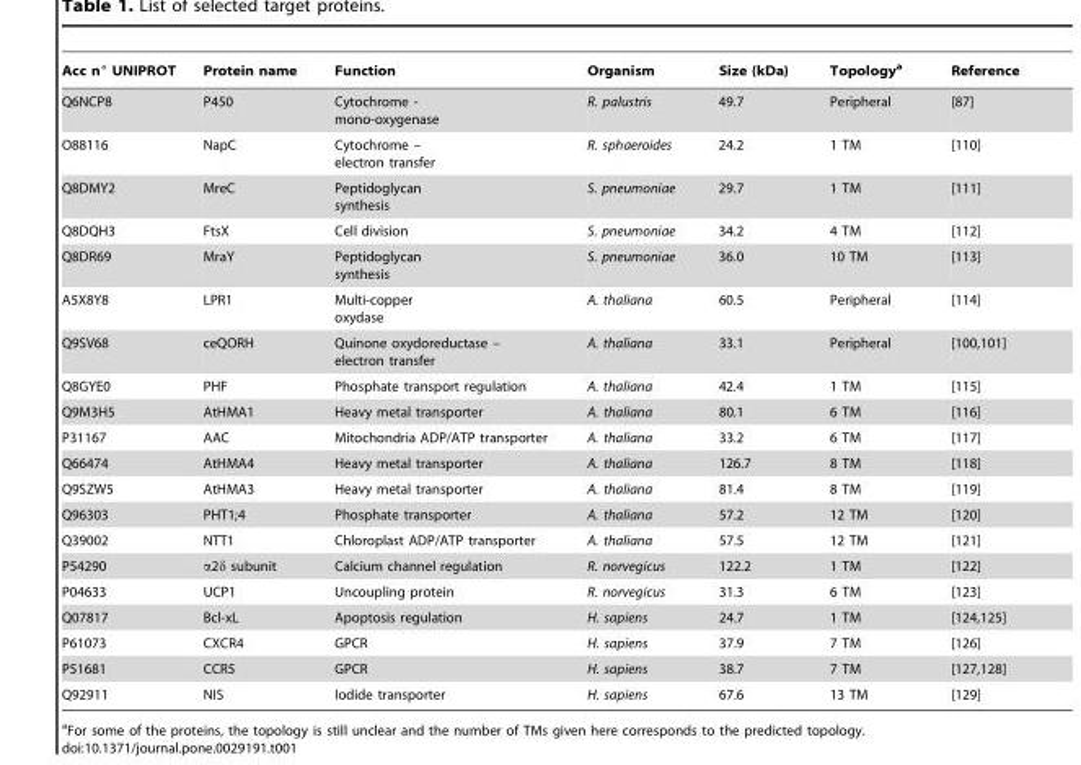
<table><thead><tr><td>Acc n° UNIPROT</td><td>Protein name</td><td>Function</td><td>Organism</td><td>Size (kDa)</td><td>Topology<sup>a</sup></td><td>Reference</td></tr></thead><tbody><tr><td>Q6NCP8</td><td>P450</td><td>Cytochrome - mono-oxygenase</td><td>R. palustris</td><td>49.7</td><td>Peripheral</td><td>[87]</td></tr><tr><td>O88116</td><td>NapC</td><td>Cytochrome – electron transfer</td><td>R. sphaeroides</td><td>24.2</td><td>1 TM</td><td>[110]</td></tr><tr><td>Q8DMY2</td><td>MreC</td><td>Peptidoglycan synthesis</td><td>S. pneumoniae</td><td>29.7</td><td>1 TM</td><td>[111]</td></tr><tr><td>Q8DQH3</td><td>FtsX</td><td>Cell division</td><td>S. pneumoniae</td><td>34.2</td><td>4 TM</td><td>[112]</td></tr><tr><td>Q8DR69</td><td>MraY</td><td>Peptidoglycan synthesis</td><td>S. pneumoniae</td><td>36.0</td><td>10 TM</td><td>[113]</td></tr><tr><td>A5X8Y8</td><td>LPR1</td><td>Multi-copper oxydase</td><td>A. thaliana</td><td>60.5</td><td>Peripheral</td><td>[114]</td></tr><tr><td>Q9SV68</td><td>ceQORH</td><td>Quinone oxydoreductase – electron transfer</td><td>A. thaliana</td><td>33.1</td><td>Peripheral</td><td>[100,101]</td></tr><tr><td>Q8GYE0</td><td>PHF</td><td>Phosphate transport regulation</td><td>A. thaliana</td><td>42.4</td><td>1 TM</td><td>[115]</td></tr><tr><td>Q9M3H5</td><td>AtHMA1</td><td>Heavy metal transporter</td><td>A. thaliana</td><td>80.1</td><td>6 TM</td><td>[116]</td></tr><tr><td>P31167</td><td>AAC</td><td>Mitochondria ADP/ATP transporter</td><td>A. thaliana</td><td>33.2</td><td>6 TM</td><td>[117]</td></tr><tr><td>Q66474</td><td>AtHMA4</td><td>Heavy metal transporter</td><td>A. thaliana</td><td>126.7</td><td>8 TM</td><td>[118]</td></tr><tr><td>Q9SZW5</td><td>AtHMA3</td><td>Heavy metal transporter</td><td>A. thaliana</td><td>81.4</td><td>8 TM</td><td>[119]</td></tr><tr><td>Q96303</td><td>PHT1;4</td><td>Phosphate transporter</td><td>A. thaliana</td><td>57.2</td><td>12 TM</td><td>[120]</td></tr><tr><td>Q39002</td><td>NTT1</td><td>Chloroplast ADP/ATP transporter</td><td>A. thaliana</td><td>57.5</td><td>12 TM</td><td>[121]</td></tr><tr><td>P54290</td><td>α2δ subunit</td><td>Calcium channel regulation</td><td>R. norvegicus</td><td>122.2</td><td>1 TM</td><td>[122]</td></tr><tr><td>P04633</td><td>UCP1</td><td>Uncoupling protein</td><td>R. norvegicus</td><td>31.3</td><td>6 TM</td><td>[123]</td></tr><tr><td>Q07817</td><td>Bcl-xL</td><td>Apoptosis regulation</td><td>H. sapiens</td><td>24.7</td><td>1 TM</td><td>[124,125]</td></tr><tr><td>P61073</td><td>CXCR4</td><td>GPCR</td><td>H. sapiens</td><td>37.9</td><td>7 TM</td><td>[126]</td></tr><tr><td>P51681</td><td>CCR5</td><td>GPCR</td><td>H. sapiens</td><td>38.7</td><td>7 TM</td><td>[127,128]</td></tr><tr><td>Q92911</td><td>NIS</td><td>Iodide transporter</td><td>H. sapiens</td><td>67.6</td><td>13 TM</td><td>[129]</td></tr></tbody></table>